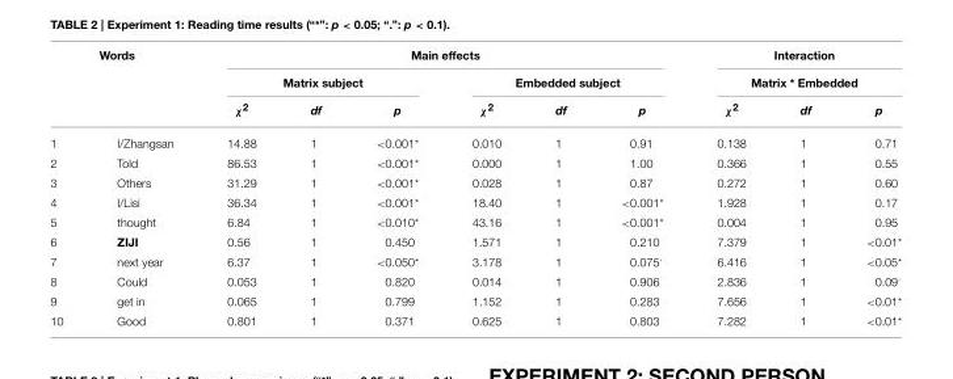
<table><thead><tr><td colspan="2">Words</td><td colspan="6">Main effects</td><td rowspan="2" colspan="3">Interaction Matrix * Embedded</td></tr><tr><td rowspan="2"></td><td rowspan="2"></td><td colspan="3">Matrix subject</td><td colspan="3">Embedded subject</td></tr><tr><td>χ<sup>2</sup></td><td>df</td><td>p</td><td>χ<sup>2</sup></td><td>df</td><td>p</td><td>χ<sup>2</sup></td><td>df</td><td>p</td></tr></thead><tbody><tr><td>1</td><td>I/Zhangsan</td><td>14.88</td><td>1</td><td>&lt;0.001*</td><td>0.010</td><td>1</td><td>0.91</td><td>0.138</td><td>1</td><td>0.71</td></tr><tr><td>2</td><td>Told</td><td>86.53</td><td>1</td><td>&lt;0.001*</td><td>0.000</td><td>1</td><td>1.00</td><td>0.366</td><td>1</td><td>0.55</td></tr><tr><td>3</td><td>Others</td><td>31.29</td><td>1</td><td>&lt;0.001*</td><td>0.028</td><td>1</td><td>0.87</td><td>0.272</td><td>1</td><td>0.60</td></tr><tr><td>4</td><td>I/Lisi</td><td>36.34</td><td>1</td><td>&lt;0.001*</td><td>18.40</td><td>1</td><td>&lt;0.001*</td><td>1.928</td><td>1</td><td>0.17</td></tr><tr><td>5</td><td>thought</td><td>6.84</td><td>1</td><td>&lt;0.010*</td><td>43.16</td><td>1</td><td>&lt;0.001*</td><td>0.004</td><td>1</td><td>0.95</td></tr><tr><td>6</td><td>ZIJI</td><td>0.56</td><td>1</td><td>0.450</td><td>1.571</td><td>1</td><td>0.210</td><td>7.379</td><td>1</td><td>&lt;0.01*</td></tr><tr><td>7</td><td>next year</td><td>6.37</td><td>1</td><td>&lt;0.050*</td><td>3.178</td><td>1</td><td>0.075<sup>·</sup></td><td>6.416</td><td>1</td><td>&lt;0.05*</td></tr><tr><td>8</td><td>Could</td><td>0.053</td><td>1</td><td>0.820</td><td>0.014</td><td>1</td><td>0.906</td><td>2.836</td><td>1</td><td>0.09<sup>·</sup></td></tr><tr><td>9</td><td>get in</td><td>0.065</td><td>1</td><td>0.799</td><td>1.152</td><td>1</td><td>0.283</td><td>7.656</td><td>1</td><td>&lt;0.01*</td></tr><tr><td>10</td><td>Good</td><td>0.801</td><td>1</td><td>0.371</td><td>0.625</td><td>1</td><td>0.803</td><td>7.282</td><td>1</td><td>&lt;0.01*</td></tr></tbody></table>